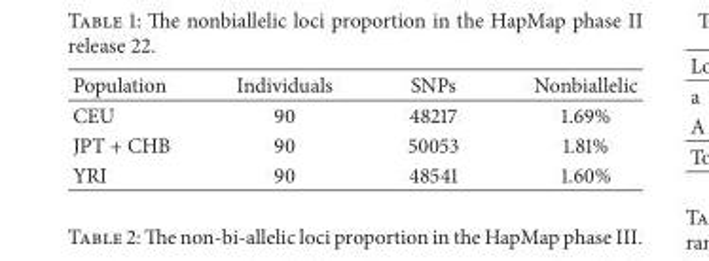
<table><thead><tr><td>Population</td><td>Individuals</td><td>SNPs</td><td>Nonbiallelic</td></tr></thead><tbody><tr><td>CEU</td><td>90</td><td>48217</td><td>1.69%</td></tr><tr><td>JPT + CHB</td><td>90</td><td>50053</td><td>1.81%</td></tr><tr><td>YRI</td><td>90</td><td>48541</td><td>1.60%</td></tr></tbody></table>